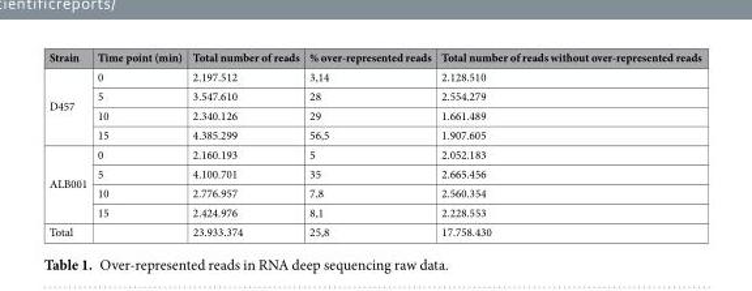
<table><thead><tr><td>Strain</td><td>Time point (min)</td><td>Total number of reads</td><td>% over-represented reads</td><td>Total number of reads without over-represented reads</td></tr></thead><tbody><tr><td rowspan="4">D457</td><td>0</td><td>2.197.512</td><td>3,14</td><td>2.128.510</td></tr><tr><td>5</td><td>3.547.610</td><td>28</td><td>2.554.279</td></tr><tr><td>10</td><td>2.340.126</td><td>29</td><td>1.661.489</td></tr><tr><td>15</td><td>4.385.299</td><td>56,5</td><td>1.907.605</td></tr><tr><td rowspan="4">ALB001</td><td>0</td><td>2.160.193</td><td>5</td><td>2.052.183</td></tr><tr><td>5</td><td>4.100.701</td><td>35</td><td>2.665.456</td></tr><tr><td>10</td><td>2.776.957</td><td>7,8</td><td>2.560.354</td></tr><tr><td>15</td><td>2.424.976</td><td>8,1</td><td>2.228.553</td></tr><tr><td>Total</td><td></td><td>23.933.374</td><td>25,8</td><td>17.758.430</td></tr></tbody></table>